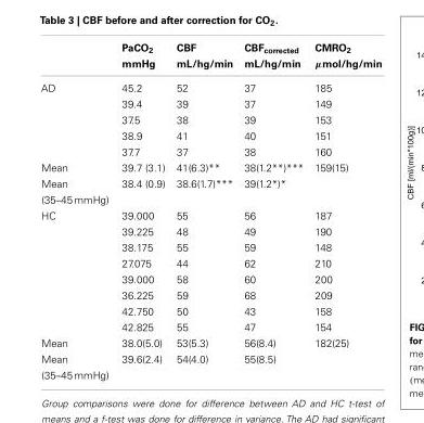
<table><thead><tr><td></td><td>PaCO<sub>2</sub> mmHg</td><td>CBF mL/hg/min</td><td>CBF<sub>corrected</sub> mL/hg/min</td><td>CMRO<sub>2</sub> µmol/hg/min</td></tr></thead><tbody><tr><td rowspan="5">AD</td><td>45.2</td><td>52</td><td>37</td><td>185</td></tr><tr><td>39.4</td><td>39</td><td>37</td><td>149</td></tr><tr><td>37.5</td><td>38</td><td>39</td><td>153</td></tr><tr><td>38.9</td><td>41</td><td>40</td><td>151</td></tr><tr><td>37.7</td><td>37</td><td>38</td><td>160</td></tr><tr><td>Mean</td><td>39.7 (3.1)</td><td>41(6.3)**</td><td>38(1.2**)***</td><td>159(15)</td></tr><tr><td>Mean (35–45 mmHg)</td><td>38.4 (0.9)</td><td>38.6(1.7)***</td><td>39(1.2*)*</td><td></td></tr><tr><td rowspan="8">HC</td><td>39.000</td><td>55</td><td>56</td><td>187</td></tr><tr><td>39.225</td><td>48</td><td>49</td><td>190</td></tr><tr><td>38.175</td><td>55</td><td>59</td><td>148</td></tr><tr><td>27.075</td><td>44</td><td>62</td><td>210</td></tr><tr><td>39.000</td><td>58</td><td>60</td><td>200</td></tr><tr><td>36.225</td><td>59</td><td>68</td><td>209</td></tr><tr><td>42.750</td><td>50</td><td>43</td><td>158</td></tr><tr><td>42.825</td><td>55</td><td>47</td><td>154</td></tr><tr><td>Mean</td><td>38.0(5.0)</td><td>53(5.3)</td><td>56(8.4)</td><td>182(25)</td></tr><tr><td>Mean (35–45 mmHg)</td><td>39.6(2.4)</td><td>54(4.0)</td><td>55(8.5)</td><td></td></tr></tbody></table>